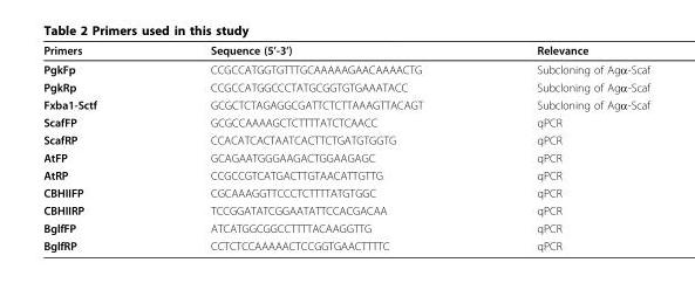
<table><thead><tr><td>Primers</td><td>Sequence (5’-3’)</td><td>Relevance</td></tr></thead><tbody><tr><td>PgkFp</td><td>CCGCCATGGTGTTTGCAAAAAGAACAAAACTG</td><td>Subcloning of Agα-Scaf</td></tr><tr><td>PgkRp</td><td>CCGCCATGGCCCTATGCGGTGTGAAATACC</td><td>Subcloning of Agα-Scaf</td></tr><tr><td>Fxba1-Sctf</td><td>GCGCTCTAGAGGCGATTCTCTTAAAGTTACAGT</td><td>Subcloning of Agα-Scaf</td></tr><tr><td>ScafFP</td><td>GCGCCAAAAGCTCTTTTATCTCAACC</td><td>qPCR</td></tr><tr><td>ScafRP</td><td>CCACATCACTAATCACTTCTGATGTGGTG</td><td>qPCR</td></tr><tr><td>AtFP</td><td>GCAGAATGGGAAGACTGGAAGAGC</td><td>qPCR</td></tr><tr><td>AtRP</td><td>CCGCCGTCATGACTTGTAACATTGTTG</td><td>qPCR</td></tr><tr><td>CBHIIFP</td><td>CGCAAAGGTTCCCTCTTTTATGTGGC</td><td>qPCR</td></tr><tr><td>CBHIIRP</td><td>TCCGGATATCGGAATATTCCACGACAA</td><td>qPCR</td></tr><tr><td>BglfFP</td><td>ATCATGGCGGCCTTTTACAAGGTTG</td><td>qPCR</td></tr><tr><td>BglfRP</td><td>CCTCTCCAAAAACTCCGGTGAACTTTTC</td><td>qPCR</td></tr></tbody></table>